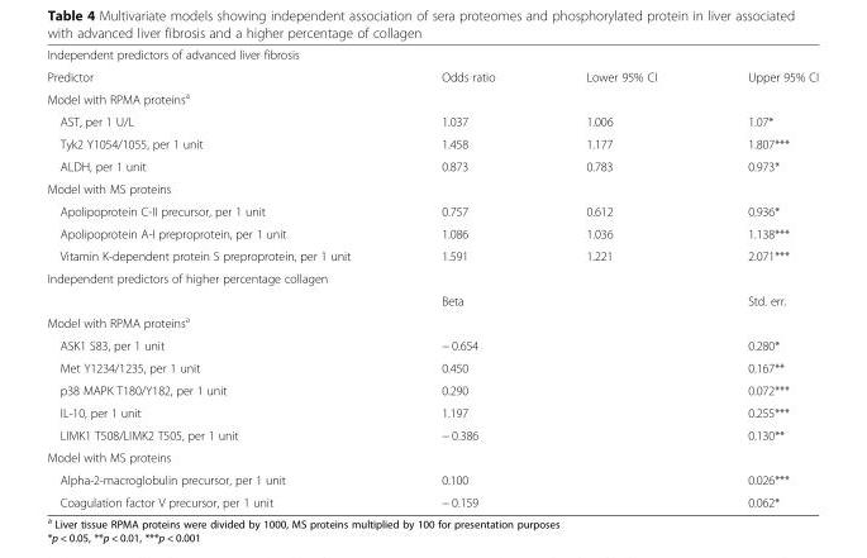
<table><tbody><tr><td colspan="4">Independent predictors of advanced liver fibrosis</td></tr><tr><td>Predictor</td><td>Odds ratio</td><td>Lower 95% CI</td><td>Upper 95% CI</td></tr><tr><td colspan="4">Model with RPMA proteins<sup>a</sup></td></tr><tr><td>AST, per 1 U/L</td><td>1.037</td><td>1.006</td><td>1.07*</td></tr><tr><td>Tyk2 Y1054/1055, per 1 unit</td><td>1.458</td><td>1.177</td><td>1.807***</td></tr><tr><td>ALDH, per 1 unit</td><td>0.873</td><td>0.783</td><td>0.973*</td></tr><tr><td colspan="4">Model with MS proteins</td></tr><tr><td>Apolipoprotein C-II precursor, per 1 unit</td><td>0.757</td><td>0.612</td><td>0.936*</td></tr><tr><td>Apolipoprotein A-I preproprotein, per 1 unit</td><td>1.086</td><td>1.036</td><td>1.138***</td></tr><tr><td>Vitamin K-dependent protein S preproprotein, per 1 unit</td><td>1.591</td><td>1.221</td><td>2.071***</td></tr><tr><td colspan="4">Independent predictors of higher percentage collagen</td></tr><tr><td></td><td colspan="2">Beta</td><td>Std. err.</td></tr><tr><td colspan="4">Model with RPMA proteins<sup>a</sup></td></tr><tr><td>ASK1 S83, per 1 unit</td><td colspan="2">− 0.654</td><td>0.280*</td></tr><tr><td>Met Y1234/1235, per 1 unit</td><td colspan="2">0.450</td><td>0.167**</td></tr><tr><td>p38 MAPK T180/Y182, per 1 unit</td><td colspan="2">0.290</td><td>0.072***</td></tr><tr><td>IL-10, per 1 unit</td><td colspan="2">1.197</td><td>0.255***</td></tr><tr><td>LIMK1 T508/LIMK2 T505, per 1 unit</td><td colspan="2">− 0.386</td><td>0.130**</td></tr><tr><td colspan="4">Model with MS proteins</td></tr><tr><td>Alpha-2-macroglobulin precursor, per 1 unit</td><td colspan="2">0.100</td><td>0.026***</td></tr><tr><td>Coagulation factor V precursor, per 1 unit</td><td colspan="2">− 0.159</td><td>0.062*</td></tr></tbody></table>